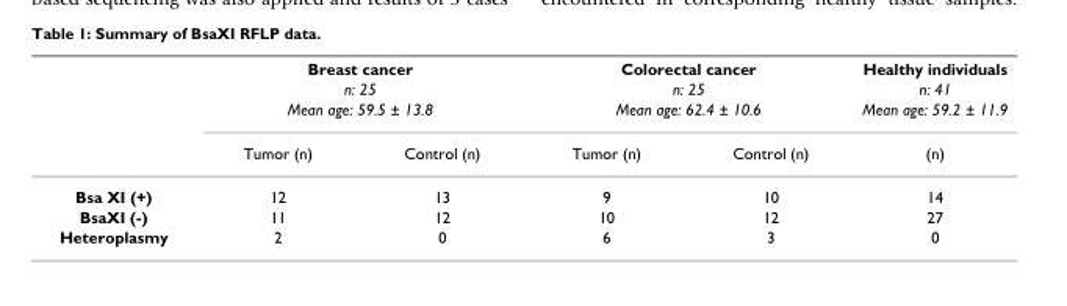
<table><thead><tr><td rowspan="4"></td><td rowspan="3" colspan="2">Breast cancer n: 25 Mean age: 59.5 ± 13.8</td><td rowspan="3" colspan="2">Colorectal cancer n: 25 Mean age: 62.4 ± 10.6</td><td rowspan="4">Healthy individuals n: 41 Mean age: 59.2 ± 11.9 (n)</td></tr><tr></tr><tr></tr><tr><td>Tumor (n)</td><td>Control (n)</td><td>Tumor (n)</td><td>Control (n)</td></tr></thead><tbody><tr><td>Bsa XI (+)</td><td>12</td><td>13</td><td>9</td><td>10</td><td>14</td></tr><tr><td>BsaXI (-)</td><td>11</td><td>12</td><td>10</td><td>12</td><td>27</td></tr><tr><td>Heteroplasmy</td><td>2</td><td>0</td><td>6</td><td>3</td><td>0</td></tr></tbody></table>